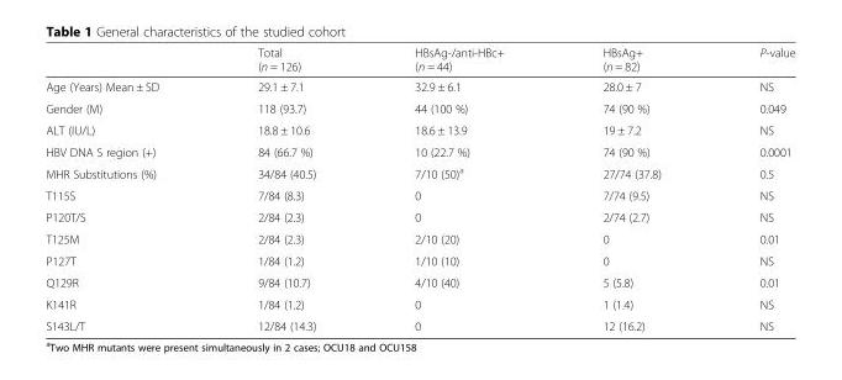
<table><thead><tr><td></td><td>Total (n = 126)</td><td>HBsAg-/anti-HBc+ (n = 44)</td><td>HBsAg+ (n = 82)</td><td>P-value</td></tr></thead><tbody><tr><td>Age (Years) Mean ± SD</td><td>29.1 ± 7.1</td><td>32.9 ± 6.1</td><td>28.0 ± 7</td><td>NS</td></tr><tr><td>Gender (M)</td><td>118 (93.7)</td><td>44 (100 %)</td><td>74 (90 %)</td><td>0.049</td></tr><tr><td>ALT (IU/L)</td><td>18.8 ± 10.6</td><td>18.6 ± 13.9</td><td>19 ± 7.2</td><td>NS</td></tr><tr><td>HBV DNA S region (+)</td><td>84 (66.7 %)</td><td>10 (22.7 %)</td><td>74 (90 %)</td><td>0.0001</td></tr><tr><td>MHR Substitutions (%)</td><td>34/84 (40.5)</td><td>7/10 (50)<sup>a</sup></td><td>27/74 (37.8)</td><td>0.5</td></tr><tr><td>T115S</td><td>7/84 (8.3)</td><td>0</td><td>7/74 (9.5)</td><td>NS</td></tr><tr><td>P120T/S</td><td>2/84 (2.3)</td><td>0</td><td>2/74 (2.7)</td><td>NS</td></tr><tr><td>T125M</td><td>2/84 (2.3)</td><td>2/10 (20)</td><td>0</td><td>0.01</td></tr><tr><td>P127T</td><td>1/84 (1.2)</td><td>1/10 (10)</td><td>0</td><td>NS</td></tr><tr><td>Q129R</td><td>9/84 (10.7)</td><td>4/10 (40)</td><td>5 (5.8)</td><td>0.01</td></tr><tr><td>K141R</td><td>1/84 (1.2)</td><td>0</td><td>1 (1.4)</td><td>NS</td></tr><tr><td>S143L/T</td><td>12/84 (14.3)</td><td>0</td><td>12 (16.2)</td><td>NS</td></tr></tbody></table>